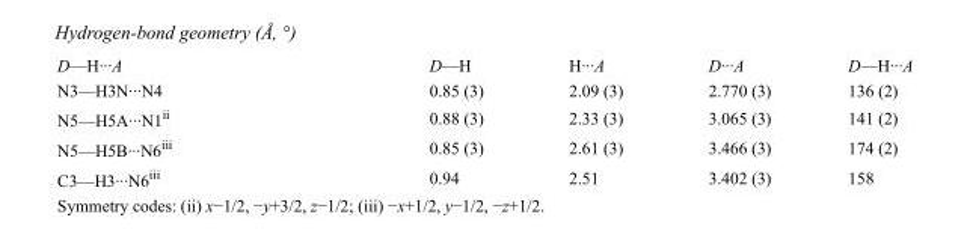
<table><tbody><tr><td>D—H···A</td><td>D—H</td><td>H···A</td><td>D···A</td><td>D—H···A</td></tr><tr><td>N3—H3N···N4</td><td>0.85 (3)</td><td>2.09 (3)</td><td>2.770 (3)</td><td>136 (2)</td></tr><tr><td>N5—H5A···N1<sup>ii</sup></td><td>0.88 (3)</td><td>2.33 (3)</td><td>3.065 (3)</td><td>141 (2)</td></tr><tr><td>N5—H5B···N6<sup>iii</sup></td><td>0.85 (3)</td><td>2.61 (3)</td><td>3.466 (3)</td><td>174 (2)</td></tr><tr><td>C3—H3···N6<sup>iii</sup></td><td>0.94</td><td>2.51</td><td>3.402 (3)</td><td>158</td></tr></tbody></table>